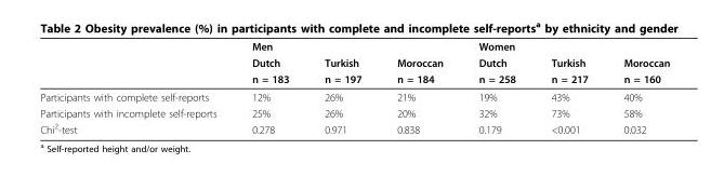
<table><thead><tr><td rowspan="3"></td><td rowspan="3">Men Dutch n = 183</td><td rowspan="3">Turkish n = 197</td><td rowspan="3">Moroccan n = 184</td><td rowspan="3">Women Dutch n = 258</td><td rowspan="3">Turkish n = 217</td><td rowspan="3">Moroccan n = 160</td></tr><tr></tr><tr></tr></thead><tbody><tr><td>Participants with complete self-reports</td><td>12%</td><td>26%</td><td>21%</td><td>19%</td><td>43%</td><td>40%</td></tr><tr><td>Participants with incomplete self-reports</td><td>25%</td><td>26%</td><td>20%</td><td>32%</td><td>73%</td><td>58%</td></tr><tr><td>Chi<sup>2</sup>-test</td><td>0.278</td><td>0.971</td><td>0.838</td><td>0.179</td><td>&lt;0.001</td><td>0.032</td></tr></tbody></table>